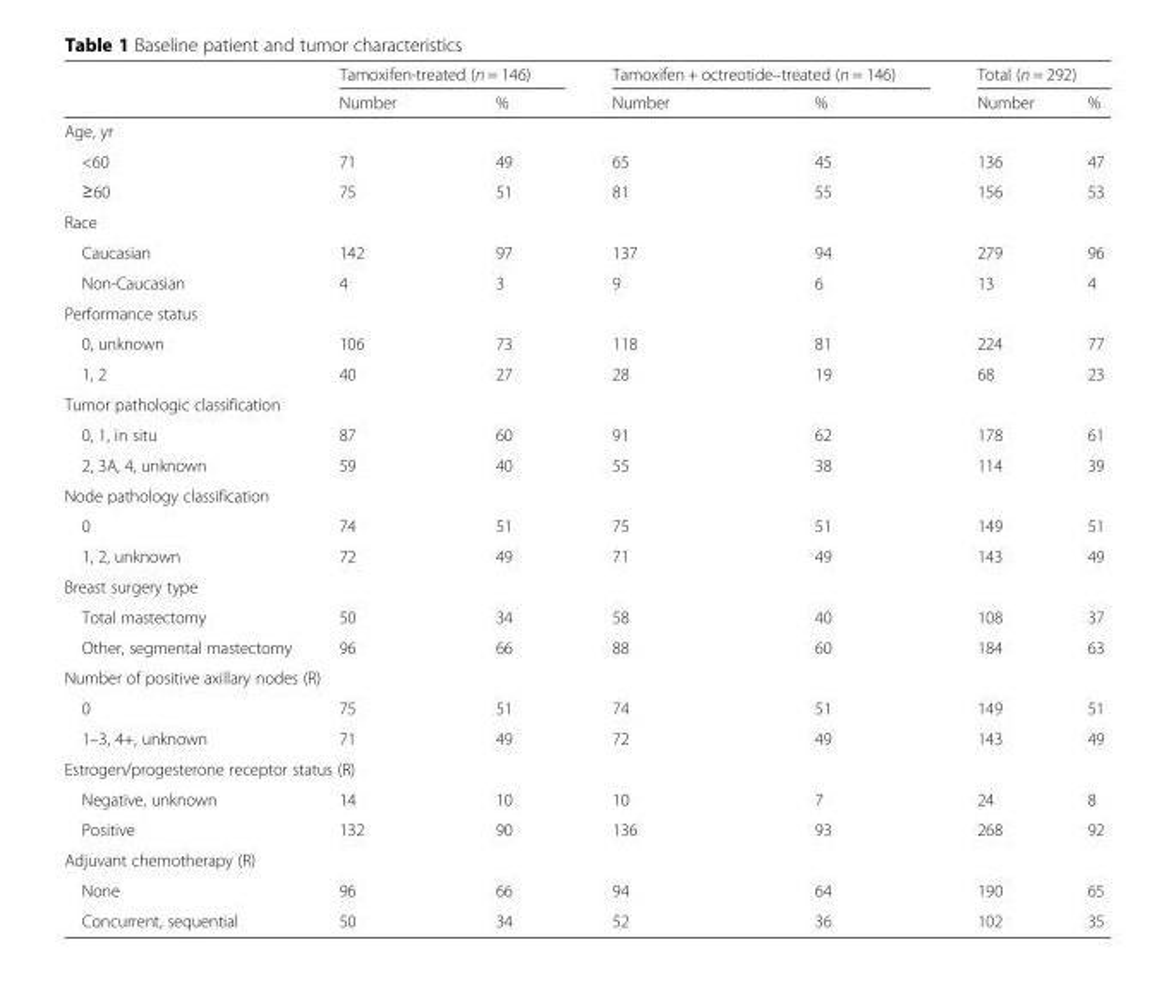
<table><thead><tr><td rowspan="2"></td><td colspan="2">Tamoxifen-treated (n = 146)</td><td colspan="2">Tamoxifen + octreotide–treated (n = 146)</td><td colspan="2">Total (n = 292)</td></tr><tr><td>Number</td><td>%</td><td>Number</td><td>%</td><td>Number</td><td>%</td></tr></thead><tbody><tr><td colspan="7">Age, yr</td></tr><tr><td>&lt;60</td><td>71</td><td>49</td><td>65</td><td>45</td><td>136</td><td>47</td></tr><tr><td>≥60</td><td>75</td><td>51</td><td>81</td><td>55</td><td>156</td><td>53</td></tr><tr><td colspan="7">Race</td></tr><tr><td>Caucasian</td><td>142</td><td>97</td><td>137</td><td>94</td><td>279</td><td>96</td></tr><tr><td>Non-Caucasian</td><td>4</td><td>3</td><td>9</td><td>6</td><td>13</td><td>4</td></tr><tr><td colspan="7">Performance status</td></tr><tr><td>0, unknown</td><td>106</td><td>73</td><td>118</td><td>81</td><td>224</td><td>77</td></tr><tr><td>1, 2</td><td>40</td><td>27</td><td>28</td><td>19</td><td>68</td><td>23</td></tr><tr><td colspan="7">Tumor pathologic classification</td></tr><tr><td>0, 1, in situ</td><td>87</td><td>60</td><td>91</td><td>62</td><td>178</td><td>61</td></tr><tr><td>2, 3A, 4, unknown</td><td>59</td><td>40</td><td>55</td><td>38</td><td>114</td><td>39</td></tr><tr><td colspan="7">Node pathology classification</td></tr><tr><td>0</td><td>74</td><td>51</td><td>75</td><td>51</td><td>149</td><td>51</td></tr><tr><td>1, 2, unknown</td><td>72</td><td>49</td><td>71</td><td>49</td><td>143</td><td>49</td></tr><tr><td colspan="7">Breast surgery type</td></tr><tr><td>Total mastectomy</td><td>50</td><td>34</td><td>58</td><td>40</td><td>108</td><td>37</td></tr><tr><td>Other, segmental mastectomy</td><td>96</td><td>66</td><td>88</td><td>60</td><td>184</td><td>63</td></tr><tr><td colspan="7">Number of positive axillary nodes (R)</td></tr><tr><td>0</td><td>75</td><td>51</td><td>74</td><td>51</td><td>149</td><td>51</td></tr><tr><td>1–3, 4+, unknown</td><td>71</td><td>49</td><td>72</td><td>49</td><td>143</td><td>49</td></tr><tr><td colspan="7">Estrogen/progesterone receptor status (R)</td></tr><tr><td>Negative, unknown</td><td>14</td><td>10</td><td>10</td><td>7</td><td>24</td><td>8</td></tr><tr><td>Positive</td><td>132</td><td>90</td><td>136</td><td>93</td><td>268</td><td>92</td></tr><tr><td colspan="7">Adjuvant chemotherapy (R)</td></tr><tr><td>None</td><td>96</td><td>66</td><td>94</td><td>64</td><td>190</td><td>65</td></tr><tr><td>Concurrent, sequential</td><td>50</td><td>34</td><td>52</td><td>36</td><td>102</td><td>35</td></tr></tbody></table>